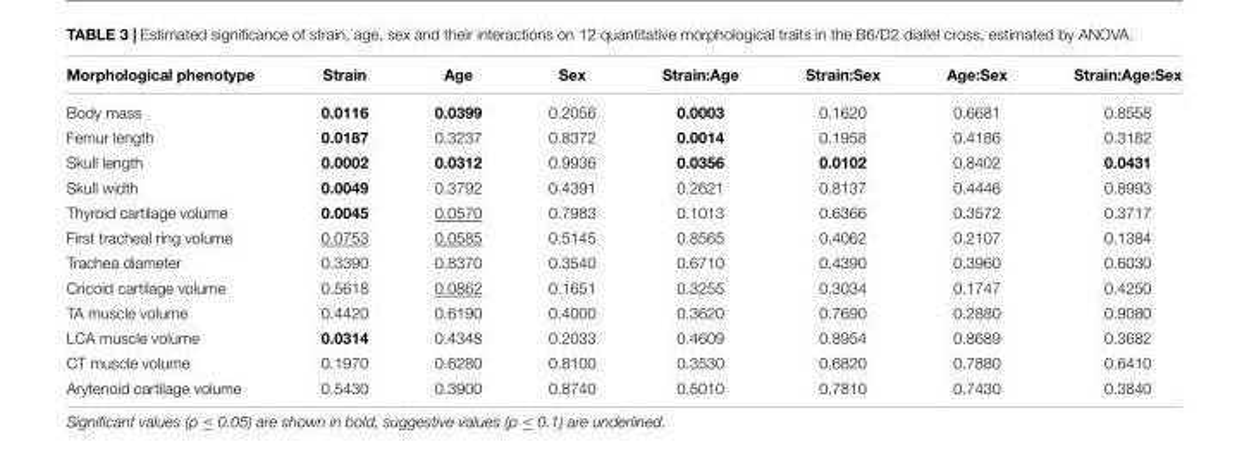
<table><thead><tr><td>Morphological phenotype</td><td>Strain</td><td>Age</td><td>Sex</td><td>Strain:Age</td><td>Strain:Sex</td><td>Age:Sex</td><td>Strain:Age:Sex</td></tr></thead><tbody><tr><td>Body mass</td><td>0.0116</td><td>0.0399</td><td>0.2056</td><td>0.0003</td><td>0.1620</td><td>0.6681</td><td>0.8558</td></tr><tr><td>Femur length</td><td>0.0187</td><td>0.3237</td><td>0.8372</td><td>0.0014</td><td>0.1958</td><td>0.4186</td><td>0.3182</td></tr><tr><td>Skull length</td><td>0.0002</td><td>0.0312</td><td>0.9936</td><td>0.0356</td><td>0.0102</td><td>0.8402</td><td>0.0431</td></tr><tr><td>Skull width</td><td>0.0049</td><td>0.3792</td><td>0.4391</td><td>0.2621</td><td>0.8137</td><td>0.4446</td><td>0.8993</td></tr><tr><td>Thyroid cartilage volume</td><td>0.0045</td><td>0.0570</td><td>0.7983</td><td>0.1013</td><td>0.6366</td><td>0.3572</td><td>0.3717</td></tr><tr><td>First tracheal ring volume</td><td>0.0753</td><td>0.0585</td><td>0.5145</td><td>0.8565</td><td>0.4062</td><td>0.2107</td><td>0.1384</td></tr><tr><td>Trachea diameter</td><td>0.3390</td><td>0.8370</td><td>0.3540</td><td>0.6710</td><td>0.4390</td><td>0.3960</td><td>0.6030</td></tr><tr><td>Cricoid cartilage volume</td><td>0.5618</td><td>0.0862</td><td>0.1651</td><td>0.3255</td><td>0.3034</td><td>0.1747</td><td>0.4250</td></tr><tr><td>TA muscle volume</td><td>0.4420</td><td>0.6190</td><td>0.4000</td><td>0.3620</td><td>0.7690</td><td>0.2880</td><td>0.9080</td></tr><tr><td>LCA muscle volume</td><td>0.0314</td><td>0.4348</td><td>0.2033</td><td>0.4609</td><td>0.8954</td><td>0.8689</td><td>0.3682</td></tr><tr><td>CT muscle volume</td><td>0.1970</td><td>0.6280</td><td>0.8100</td><td>0.3530</td><td>0.6820</td><td>0.7880</td><td>0.6410</td></tr><tr><td>Arytenoid cartilage volume</td><td>0.5430</td><td>0.3900</td><td>0.8740</td><td>0.5010</td><td>0.7810</td><td>0.7430</td><td>0.3840</td></tr></tbody></table>